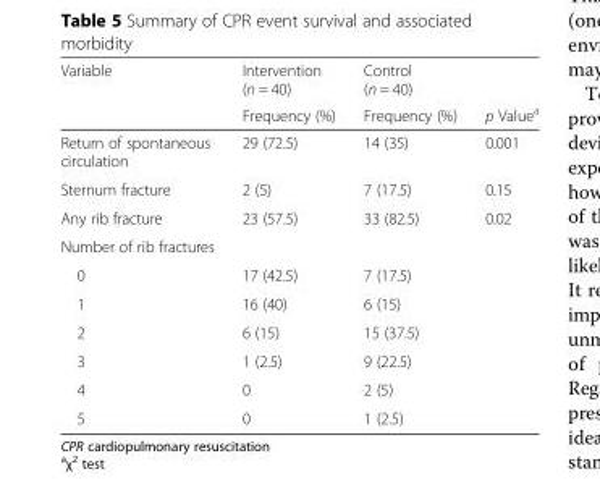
<table><thead><tr><td rowspan="2">Variable</td><td rowspan="2">Intervention (n = 40) Frequency (%)</td><td rowspan="2">Control (n = 40) Frequency (%)</td><td rowspan="2">p Value<sup>a</sup></td></tr><tr></tr></thead><tbody><tr><td>Return of spontaneous circulation</td><td>29 (72.5)</td><td>14 (35)</td><td>0.001</td></tr><tr><td>Sternum fracture</td><td>2 (5)</td><td>7 (17.5)</td><td>0.15</td></tr><tr><td>Any rib fracture</td><td>23 (57.5)</td><td>33 (82.5)</td><td>0.02</td></tr><tr><td colspan="4">Number of rib fractures</td></tr><tr><td>0</td><td>17 (42.5)</td><td>7 (17.5)</td><td rowspan="6"></td></tr><tr><td>1</td><td>16 (40)</td><td>6 (15)</td></tr><tr><td>2</td><td>6 (15)</td><td>15 (37.5)</td></tr><tr><td>3</td><td>1 (2.5)</td><td>9 (22.5)</td></tr><tr><td>4</td><td>0</td><td>2 (5)</td></tr><tr><td>5</td><td>0</td><td>1 (2.5)</td></tr></tbody></table>